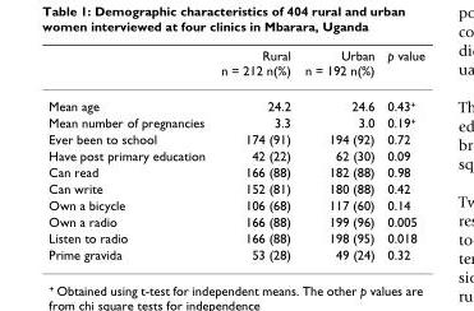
<table><thead><tr><td></td><td>Rural n = 212 n(%)</td><td>Urban n = 192 n(%)</td><td>p value</td></tr></thead><tbody><tr><td>Mean age</td><td>24.2</td><td>24.6</td><td>0.43<sup>+</sup></td></tr><tr><td>Mean number of pregnancies</td><td>3.3</td><td>3.0</td><td>0.19<sup>+</sup></td></tr><tr><td>Ever been to school</td><td>174 (91)</td><td>194 (92)</td><td>0.72</td></tr><tr><td>Have post primary education</td><td>42 (22)</td><td>62 (30)</td><td>0.09</td></tr><tr><td>Can read</td><td>166 (88)</td><td>182 (88)</td><td>0.98</td></tr><tr><td>Can write</td><td>152 (81)</td><td>180 (88)</td><td>0.42</td></tr><tr><td>Own a bicycle</td><td>106 (68)</td><td>117 (60)</td><td>0.14</td></tr><tr><td>Own a radio</td><td>166 (88)</td><td>199 (96)</td><td>0.005</td></tr><tr><td>Listen to radio</td><td>166 (88)</td><td>198 (95)</td><td>0.018</td></tr><tr><td>Prime gravida</td><td>53 (28)</td><td>49 (24)</td><td>0.32</td></tr></tbody></table>